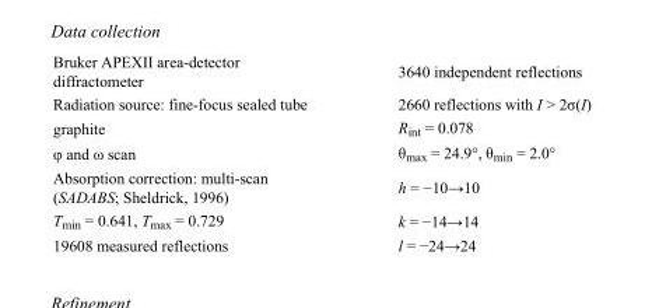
<table><tbody><tr><td>Bruker APEXII area-detector diffractometer</td><td>3640 independent reflections</td></tr><tr><td>Radiation source: fine-focus sealed tube</td><td>2660 reflections with I &gt; 2σ(I)</td></tr><tr><td>graphite</td><td>R<sub>int</sub> = 0.078</td></tr><tr><td>φ and ω scan</td><td>θ<sub>max</sub> = 24.9°, θ<sub>min</sub> = 2.0°</td></tr><tr><td>Absorption correction: multi-scan (SADABS; Sheldrick, 1996)</td><td>h = −10→10</td></tr><tr><td>T<sub>min</sub> = 0.641, T<sub>max</sub> = 0.729</td><td>k = −14→14</td></tr><tr><td>19608 measured reflections</td><td>l = −24→24</td></tr></tbody></table>